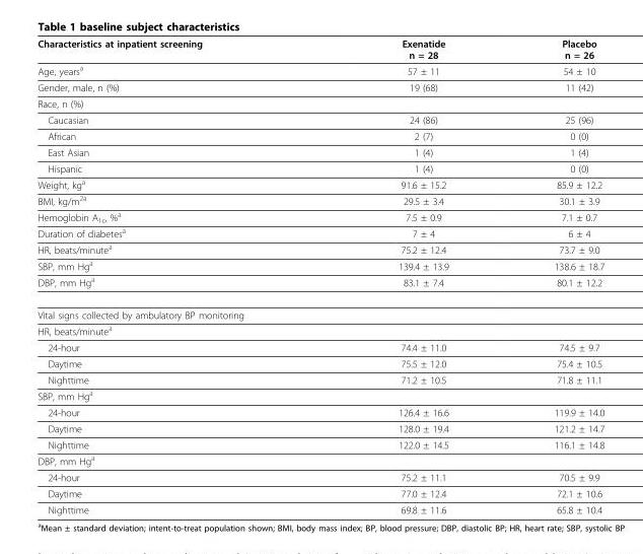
<table><thead><tr><td>Characteristics at inpatient screening</td><td>Exenatide n = 28</td><td>Placebo n = 26</td></tr></thead><tbody><tr><td>Age, years<sup>a</sup></td><td>57 ± 11</td><td>54 ± 10</td></tr><tr><td>Gender, male, n (%)</td><td>19 (68)</td><td>11 (42)</td></tr><tr><td colspan="3">Race, n (%)</td></tr><tr><td>Caucasian</td><td>24 (86)</td><td>25 (96)</td></tr><tr><td>African</td><td>2 (7)</td><td>0 (0)</td></tr><tr><td>East Asian</td><td>1 (4)</td><td>1 (4)</td></tr><tr><td>Hispanic</td><td>1 (4)</td><td>0 (0)</td></tr><tr><td>Weight, kg<sup>a</sup></td><td>91.6 ± 15.2</td><td>85.9 ± 12.2</td></tr><tr><td>BMI, kg/m<sup>2a</sup></td><td>29.5 ± 3.4</td><td>30.1 ± 3.9</td></tr><tr><td>Hemoglobin A<sub>1c</sub>, %<sup>a</sup></td><td>7.5 ± 0.9</td><td>7.1 ± 0.7</td></tr><tr><td>Duration of diabetes<sup>a</sup></td><td>7 ± 4</td><td>6 ± 4</td></tr><tr><td>HR, beats/minutea</td><td>75.2 ± 12.4</td><td>73.7 ± 9.0</td></tr><tr><td>SBP, mm Hga</td><td>139.4 ± 13.9</td><td>138.6 ± 18.7</td></tr><tr><td>DBP, mm Hga</td><td>83.1 ± 7.4</td><td>80.1 ± 12.2</td></tr><tr><td colspan="3">Vital signs collected by ambulatory BP monitoring</td></tr><tr><td colspan="3">HR, beats/minutea</td></tr><tr><td>24-hour</td><td>74.4 ± 11.0</td><td>74.5 ± 9.7</td></tr><tr><td>Daytime</td><td>75.5 ± 12.0</td><td>75.4 ± 10.5</td></tr><tr><td>Nighttime</td><td>71.2 ± 10.5</td><td>71.8 ± 11.1</td></tr><tr><td colspan="3">SBP, mm Hga</td></tr><tr><td>24-hour</td><td>126.4 ± 16.6</td><td>119.9 ± 14.0</td></tr><tr><td>Daytime</td><td>128.0 ± 19.4</td><td>121.2 ± 14.7</td></tr><tr><td>Nighttime</td><td>122.0 ± 14.5</td><td>116.1 ± 14.8</td></tr><tr><td colspan="3">DBP, mm Hga</td></tr><tr><td>24-hour</td><td>75.2 ± 11.1</td><td>70.5 ± 9.9</td></tr><tr><td>Daytime</td><td>77.0 ± 12.4</td><td>72.1 ± 10.6</td></tr><tr><td>Nighttime</td><td>69.8 ± 11.6</td><td>65.8 ± 10.4</td></tr></tbody></table>